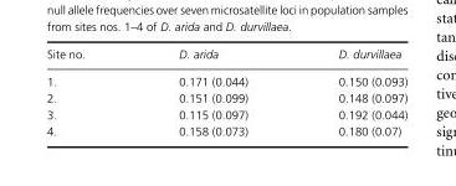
<table><thead><tr><td>Site no.</td><td>D. arida</td><td>D. durvillaea</td></tr></thead><tbody><tr><td>1.</td><td>0.171 (0.044)</td><td>0.150 (0.093)</td></tr><tr><td>2.</td><td>0.151 (0.099)</td><td>0.148 (0.097)</td></tr><tr><td>3.</td><td>0.115 (0.097)</td><td>0.192 (0.044)</td></tr><tr><td>4.</td><td>0.158 (0.073)</td><td>0.180 (0.07)</td></tr></tbody></table>